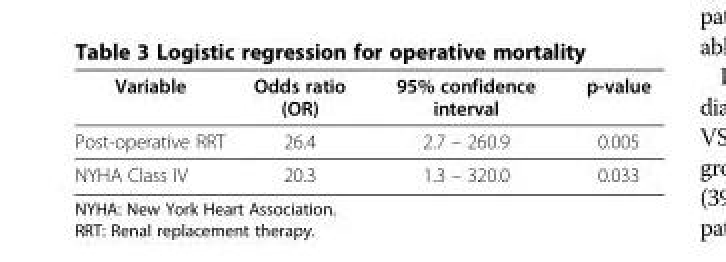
<table><thead><tr><td>Variable</td><td>Odds ratio (OR)</td><td>95% confidence interval</td><td>p-value</td></tr></thead><tbody><tr><td>Post-operative RRT</td><td>26.4</td><td>2.7 – 260.9</td><td>0.005</td></tr><tr><td>NYHA Class IV</td><td>20.3</td><td>1.3 – 320.0</td><td>0.033</td></tr></tbody></table>